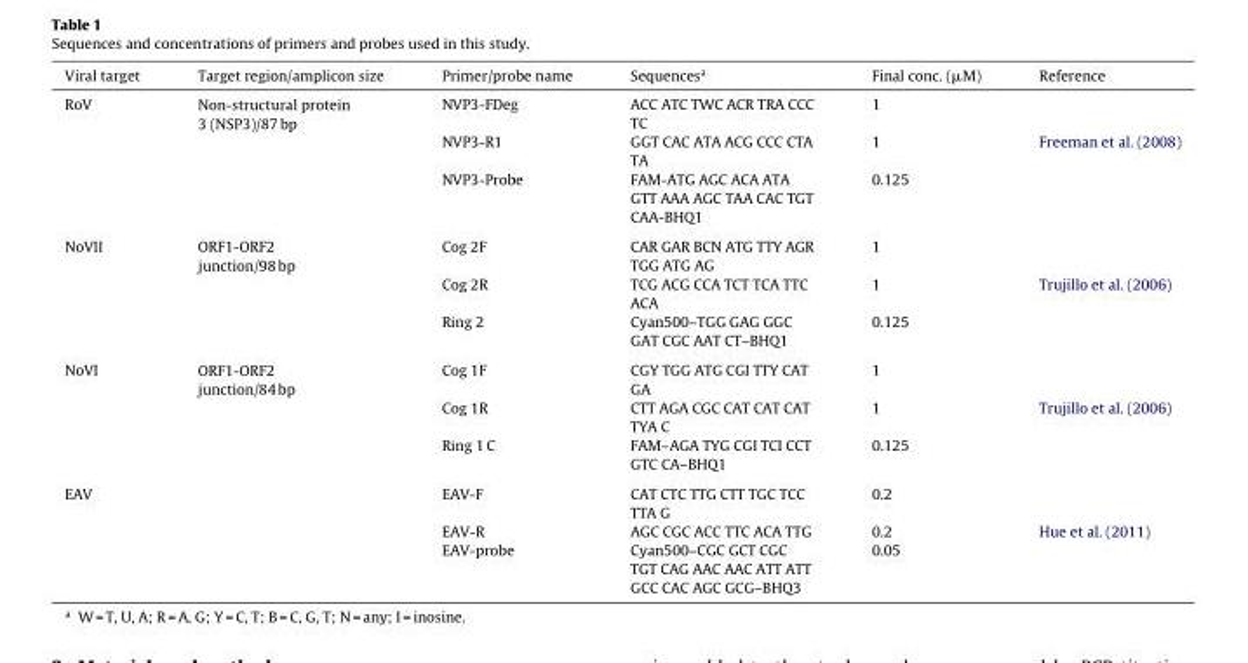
<table><thead><tr><td>Viral target</td><td>Target region/amplicon size</td><td>Primer/probe name</td><td>Sequences<sup>a</sup></td><td>Final conc. (μM)</td><td>Reference</td></tr></thead><tbody><tr><td rowspan="3">RoV</td><td rowspan="3">Non-structural protein 3 (NSP3)/87 bp</td><td>NVP3-FDeg</td><td>ACC ATC TWC ACR TRA CCC TC</td><td>1</td><td></td></tr><tr><td>NVP3-R1</td><td>GGT CAC ATA ACG CCC CTA TA</td><td>1</td><td>Freeman et al. (2008)</td></tr><tr><td>NVP3-Probe</td><td>FAM-ATG AGC ACA ATA GTT AAA AGC TAA CAC TGT CAA-BHQ1</td><td>0.125</td><td></td></tr><tr><td rowspan="3">NoVII</td><td rowspan="3">ORF1-ORF2 junction/98 bp</td><td>Cog 2F</td><td>CAR GAR BCN ATG TTY AGR TGG ATG AG</td><td>1</td><td></td></tr><tr><td>Cog 2R</td><td>TCG ACG CCA TCT TCA TTC ACA</td><td>1</td><td>Trujillo et al. (2006)</td></tr><tr><td>Ring 2</td><td>Cyan500–TGG GAG GGC GAT CGC AAT CT–BHQ1</td><td>0.125</td><td></td></tr><tr><td rowspan="3">NoVI</td><td rowspan="3">ORF1-ORF2 junction/84 bp</td><td>Cog 1F</td><td>CGY TGG ATG CGI TTY CAT GA</td><td>1</td><td></td></tr><tr><td>Cog 1R</td><td>CTT AGA CGC CAT CAT CAT TYA C</td><td>1</td><td>Trujillo et al. (2006)</td></tr><tr><td>Ring 1 C</td><td>FAM–AGA TYG CGI TCI CCT GTC CA–BHQ1</td><td>0.125</td><td></td></tr><tr><td rowspan="3">EAV</td><td></td><td>EAV-F</td><td>CAT CTC TTG CTT TGC TCC TTA G</td><td>0.2</td><td></td></tr><tr><td></td><td>EAV-R</td><td>AGC CGC ACC TTC ACA TTG</td><td>0.2</td><td>Hue et al. (2011)</td></tr><tr><td></td><td>EAV-probe</td><td>Cyan500–CGC GCT CGC TGT CAG AAC AAC ATT ATT GCC CAC AGC GCG–BHQ3</td><td>0.05</td><td></td></tr></tbody></table>